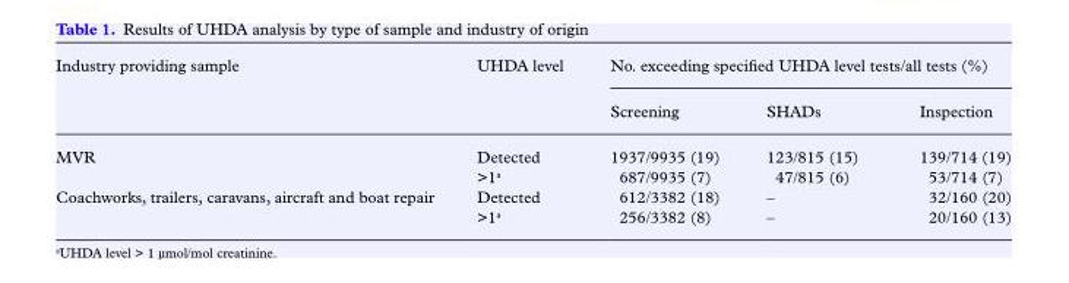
<table><thead><tr><td rowspan="2">Industry providing sample</td><td rowspan="2">UHDA level</td><td colspan="3">No. exceeding specified UHDA level tests/all tests (%)</td></tr><tr><td>Screening</td><td>SHADs</td><td>Inspection</td></tr></thead><tbody><tr><td rowspan="2">MVR</td><td>Detected</td><td>1937/9935 (19)</td><td>123/815 (15)</td><td>139/714 (19)</td></tr><tr><td>&gt;1<sup>a</sup></td><td>687/9935 (7)</td><td>47/815 (6)</td><td>53/714 (7)</td></tr><tr><td rowspan="2">Coachworks, trailers, caravans, aircraft and boat repair</td><td>Detected</td><td>612/3382 (18)</td><td>–</td><td>32/160 (20)</td></tr><tr><td>&gt;1<sup>a</sup></td><td>256/3382 (8)</td><td>–</td><td>20/160 (13)</td></tr></tbody></table>